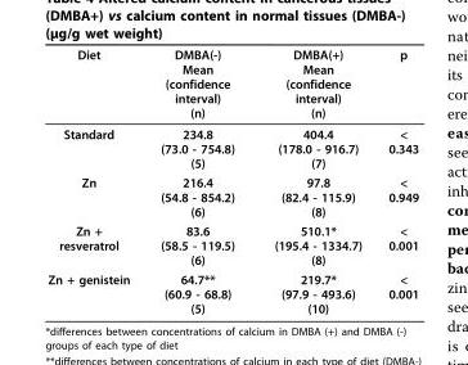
<table><thead><tr><td>Diet</td><td>DMBA(-) Mean (confidence interval) (n)</td><td>DMBA(+) Mean (confidence interval) (n)</td><td>p</td></tr></thead><tbody><tr><td>Standard</td><td>234.8 (73.0 - 754.8) (5)</td><td>404.4 (178.0 - 916.7) (7)</td><td>&lt; 0.343</td></tr><tr><td>Zn</td><td>216.4 (54.8 - 854.2) (6)</td><td>97.8 (82.4 - 115.9) (8)</td><td>&lt; 0.949</td></tr><tr><td>Zn + resveratrol</td><td>83.6 (58.5 - 119.5) (6)</td><td>510.1* (195.4 - 1334.7) (8)</td><td>&lt; 0.001</td></tr><tr><td>Zn + genistein</td><td>64.7** (60.9 - 68.8) (5)</td><td>219.7* (97.9 - 493.6) (10)</td><td>&lt; 0.001</td></tr></tbody></table>